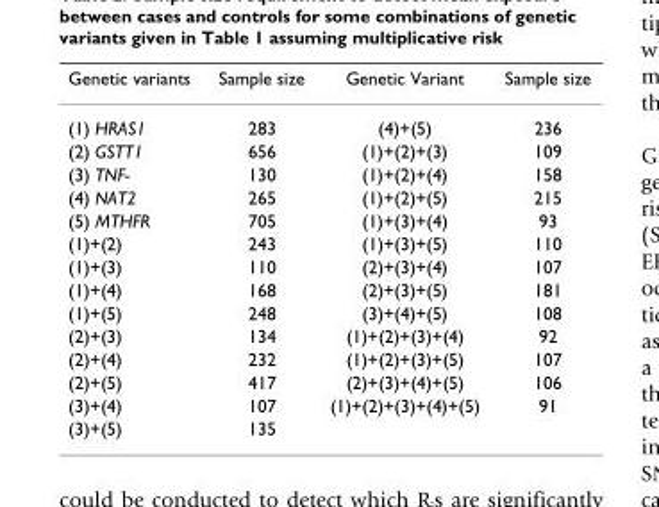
<table><thead><tr><td>Genetic variants</td><td>Sample size</td><td>Genetic Variant</td><td>Sample size</td></tr></thead><tbody><tr><td>(1) HRAS1</td><td>283</td><td>(4)+(5)</td><td>236</td></tr><tr><td>(2) GSTT1</td><td>656</td><td>(1)+(2)+(3)</td><td>109</td></tr><tr><td>(3) TNF-</td><td>130</td><td>(1)+(2)+(4)</td><td>158</td></tr><tr><td>(4) NAT2</td><td>265</td><td>(1)+(2)+(5)</td><td>215</td></tr><tr><td>(5) MTHFR</td><td>705</td><td>(1)+(3)+(4)</td><td>93</td></tr><tr><td>(1)+(2)</td><td>243</td><td>(1)+(3)+(5)</td><td>110</td></tr><tr><td>(1)+(3)</td><td>110</td><td>(2)+(3)+(4)</td><td>107</td></tr><tr><td>(1)+(4)</td><td>168</td><td>(2)+(3)+(5)</td><td>181</td></tr><tr><td>(1)+(5)</td><td>248</td><td>(3)+(4)+(5)</td><td>108</td></tr><tr><td>(2)+(3)</td><td>134</td><td>(1)+(2)+(3)+(4)</td><td>92</td></tr><tr><td>(2)+(4)</td><td>232</td><td>(1)+(2)+(3)+(5)</td><td>107</td></tr><tr><td>(2)+(5)</td><td>417</td><td>(2)+(3)+(4)+(5)</td><td>106</td></tr><tr><td>(3)+(4)</td><td>107</td><td>(1)+(2)+(3)+(4)+(5)</td><td>91</td></tr><tr><td>(3)+(5)</td><td>135</td><td></td><td></td></tr></tbody></table>